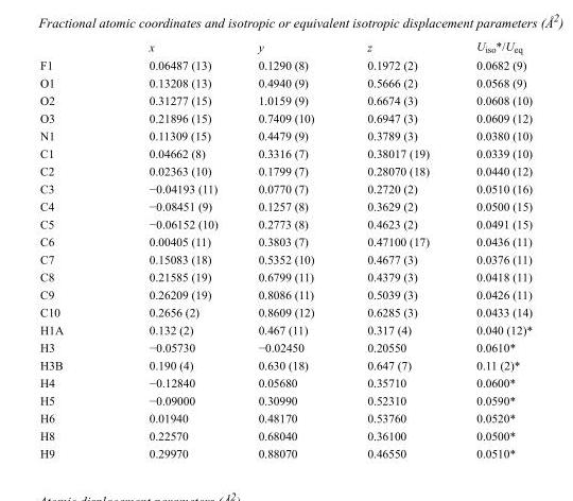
<table><thead><tr><td></td><td>x</td><td>y</td><td>z</td><td>U<sub>iso</sub>*/U<sub>eq</sub></td></tr></thead><tbody><tr><td>F1</td><td>0.06487 (13)</td><td>0.1290 (8)</td><td>0.1972 (2)</td><td>0.0682 (9)</td></tr><tr><td>O1</td><td>0.13208 (13)</td><td>0.4940 (9)</td><td>0.5666 (2)</td><td>0.0568 (9)</td></tr><tr><td>O2</td><td>0.31277 (15)</td><td>1.0159 (9)</td><td>0.6674 (3)</td><td>0.0608 (10)</td></tr><tr><td>O3</td><td>0.21896 (15)</td><td>0.7409 (10)</td><td>0.6947 (3)</td><td>0.0609 (12)</td></tr><tr><td>N1</td><td>0.11309 (15)</td><td>0.4479 (9)</td><td>0.3789 (3)</td><td>0.0380 (10)</td></tr><tr><td>C1</td><td>0.04662 (8)</td><td>0.3316 (7)</td><td>0.38017 (19)</td><td>0.0339 (10)</td></tr><tr><td>C2</td><td>0.02363 (10)</td><td>0.1799 (7)</td><td>0.28070 (18)</td><td>0.0440 (12)</td></tr><tr><td>C3</td><td>−0.04193 (11)</td><td>0.0770 (7)</td><td>0.2720 (2)</td><td>0.0510 (16)</td></tr><tr><td>C4</td><td>−0.08451 (9)</td><td>0.1257 (8)</td><td>0.3629 (2)</td><td>0.0500 (15)</td></tr><tr><td>C5</td><td>−0.06152 (10)</td><td>0.2773 (8)</td><td>0.4623 (2)</td><td>0.0491 (15)</td></tr><tr><td>C6</td><td>0.00405 (11)</td><td>0.3803 (7)</td><td>0.47100 (17)</td><td>0.0436 (11)</td></tr><tr><td>C7</td><td>0.15083 (18)</td><td>0.5352 (10)</td><td>0.4677 (3)</td><td>0.0376 (11)</td></tr><tr><td>C8</td><td>0.21585 (19)</td><td>0.6799 (11)</td><td>0.4379 (3)</td><td>0.0418 (11)</td></tr><tr><td>C9</td><td>0.26209 (19)</td><td>0.8086 (11)</td><td>0.5039 (3)</td><td>0.0426 (11)</td></tr><tr><td>C10</td><td>0.2656 (2)</td><td>0.8609 (12)</td><td>0.6285 (3)</td><td>0.0433 (14)</td></tr><tr><td>H1A</td><td>0.132 (2)</td><td>0.467 (11)</td><td>0.317 (4)</td><td>0.040 (12)*</td></tr><tr><td>H3</td><td>−0.05730</td><td>−0.02450</td><td>0.20550</td><td>0.0610*</td></tr><tr><td>H3B</td><td>0.190 (4)</td><td>0.630 (18)</td><td>0.647 (7)</td><td>0.11 (2)*</td></tr><tr><td>H4</td><td>−0.12840</td><td>0.05680</td><td>0.35710</td><td>0.0600*</td></tr><tr><td>H5</td><td>−0.09000</td><td>0.30990</td><td>0.52310</td><td>0.0590*</td></tr><tr><td>H6</td><td>0.01940</td><td>0.48170</td><td>0.53760</td><td>0.0520*</td></tr><tr><td>H8</td><td>0.22570</td><td>0.68040</td><td>0.36100</td><td>0.0500*</td></tr><tr><td>H9</td><td>0.29970</td><td>0.88070</td><td>0.46550</td><td>0.0510*</td></tr></tbody></table>